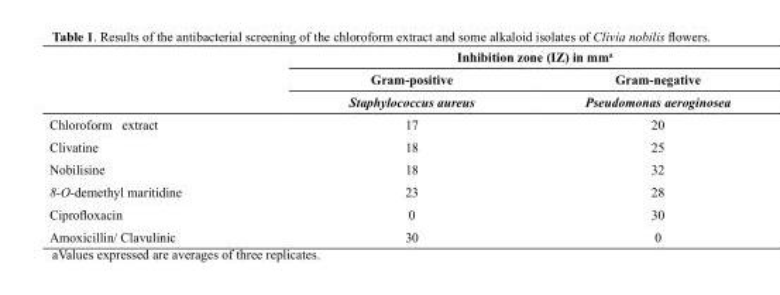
<table><thead><tr><td rowspan="3"></td><td colspan="2">Inhibition zone (IZ) in mm<sup>a</sup></td></tr><tr><td rowspan="2">Gram-positive Staphylococcus aureus</td><td rowspan="2">Gram-negative Pseudomonas aeroginosea</td></tr><tr></tr></thead><tbody><tr><td>Chloroform extract</td><td>17</td><td>20</td></tr><tr><td>Clivatine</td><td>18</td><td>25</td></tr><tr><td>Nobilisine</td><td>18</td><td>32</td></tr><tr><td>8-O-demethyl maritidine</td><td>23</td><td>28</td></tr><tr><td>Ciprofloxacin</td><td>0</td><td>30</td></tr><tr><td>Amoxicillin/ Clavulinic</td><td>30</td><td>0</td></tr></tbody></table>